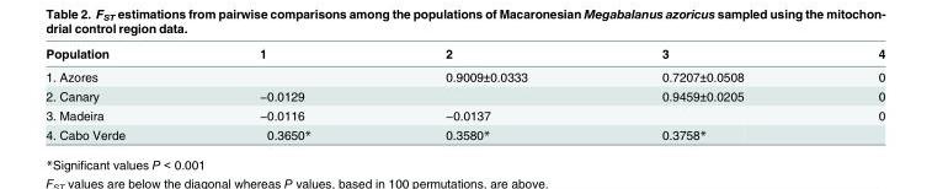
<table><thead><tr><td>Population</td><td>1</td><td>2</td><td>3</td><td>4</td></tr></thead><tbody><tr><td>1. Azores</td><td></td><td>0.9009±0.0333</td><td>0.7207±0.0508</td><td>0</td></tr><tr><td>2. Canary</td><td>−0.0129</td><td></td><td>0.9459±0.0205</td><td>0</td></tr><tr><td>3. Madeira</td><td>−0.0116</td><td>−0.0137</td><td></td><td>0</td></tr><tr><td>4. Cabo Verde</td><td>0.3650*</td><td>0.3580*</td><td>0.3758*</td><td></td></tr></tbody></table>